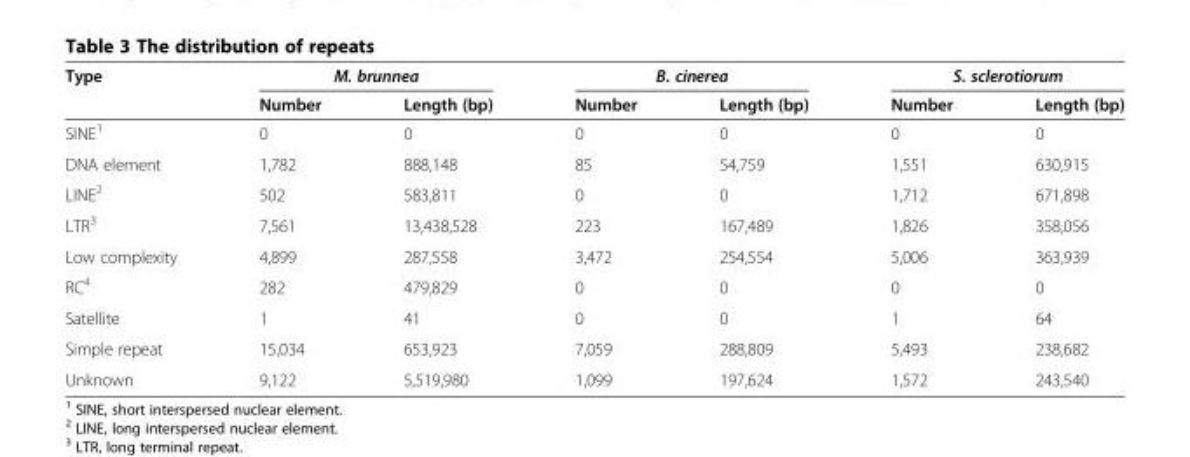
<table><thead><tr><td rowspan="2">Type</td><td colspan="2">M. brunnea</td><td colspan="2">B. cinerea</td><td colspan="2">S. sclerotiorum</td></tr><tr><td>Number</td><td>Length (bp)</td><td>Number</td><td>Length (bp)</td><td>Number</td><td>Length (bp)</td></tr></thead><tbody><tr><td>SINE<sup>1</sup></td><td>0</td><td>0</td><td>0</td><td>0</td><td>0</td><td>0</td></tr><tr><td>DNA element</td><td>1,782</td><td>888,148</td><td>85</td><td>54,759</td><td>1,551</td><td>630,915</td></tr><tr><td>LINE<sup>2</sup></td><td>502</td><td>583,811</td><td>0</td><td>0</td><td>1,712</td><td>671,898</td></tr><tr><td>LTR<sup>3</sup></td><td>7,561</td><td>13,438,528</td><td>223</td><td>167,489</td><td>1,826</td><td>358,056</td></tr><tr><td>Low complexity</td><td>4,899</td><td>287,558</td><td>3,472</td><td>254,554</td><td>5,006</td><td>363,939</td></tr><tr><td>RC<sup>4</sup></td><td>282</td><td>479,829</td><td>0</td><td>0</td><td>0</td><td>0</td></tr><tr><td>Satellite</td><td>1</td><td>41</td><td>0</td><td>0</td><td>1</td><td>64</td></tr><tr><td>Simple repeat</td><td>15,034</td><td>653,923</td><td>7,059</td><td>288,809</td><td>5,493</td><td>238,682</td></tr><tr><td>Unknown</td><td>9,122</td><td>5,519,980</td><td>1,099</td><td>197,624</td><td>1,572</td><td>243,540</td></tr></tbody></table>